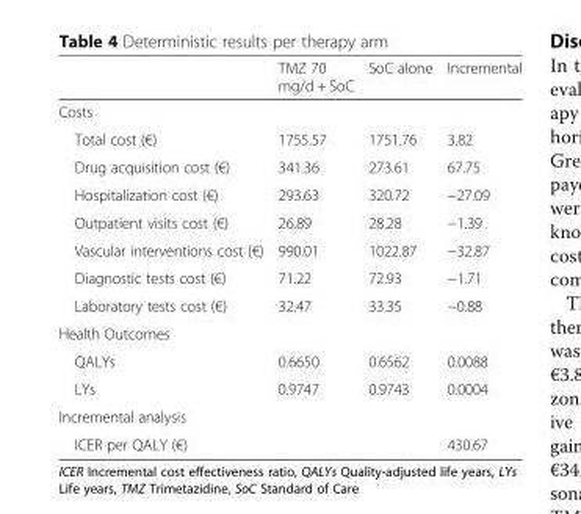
<table><thead><tr><td></td><td>TMZ 70 mg/d + SoC</td><td>SoC alone</td><td>Incremental</td></tr></thead><tbody><tr><td colspan="4">Costs</td></tr><tr><td>Total cost (€)</td><td>1755.57</td><td>1751.76</td><td>3.82</td></tr><tr><td>Drug acquisition cost (€)</td><td>341.36</td><td>273.61</td><td>67.75</td></tr><tr><td>Hospitalization cost (€)</td><td>293.63</td><td>320.72</td><td>−27.09</td></tr><tr><td>Outpatient visits cost (€)</td><td>26.89</td><td>28.28</td><td>−1.39</td></tr><tr><td>Vascular interventions cost (€)</td><td>990.01</td><td>1022.87</td><td>−32.87</td></tr><tr><td>Diagnostic tests cost (€)</td><td>71.22</td><td>72.93</td><td>−1.71</td></tr><tr><td>Laboratory tests cost (€)</td><td>32.47</td><td>33.35</td><td>−0.88</td></tr><tr><td colspan="4">Health Outcomes</td></tr><tr><td>QALYs</td><td>0.6650</td><td>0.6562</td><td>0.0088</td></tr><tr><td>LYs</td><td>0.9747</td><td>0.9743</td><td>0.0004</td></tr><tr><td colspan="4">Incremental analysis</td></tr><tr><td>ICER per QALY (€)</td><td></td><td></td><td>430.67</td></tr></tbody></table>